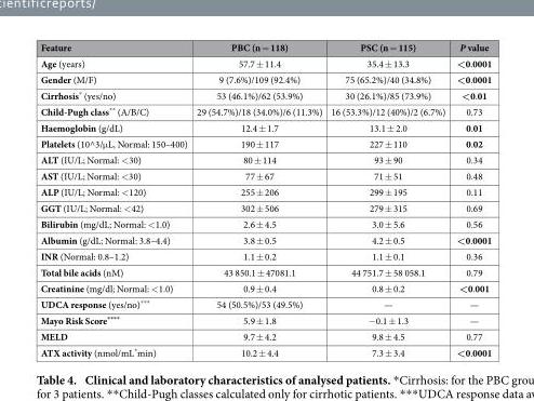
<table><thead><tr><td>Feature</td><td>PBC (n = 118)</td><td>PSC (n = 115)</td><td>P value</td></tr></thead><tbody><tr><td>Age (years)</td><td>57.7 ± 11.4</td><td>35.4 ± 13.3</td><td>&lt;0.0001</td></tr><tr><td>Gender (M/F)</td><td>9 (7.6%)/109 (92.4%)</td><td>75 (65.2%)/40 (34.8%)</td><td>&lt;0.0001</td></tr><tr><td>Cirrhosis* (yes/no)</td><td>53 (46.1%)/62 (53.9%)</td><td>30 (26.1%)/85 (73.9%)</td><td>&lt;0.01</td></tr><tr><td>Child-Pugh class** (A/B/C)</td><td>29 (54.7%)/18 (34.0%)/6 (11.3%)</td><td>16 (53.3%)/12 (40%)/2 (6.7%)</td><td>0.73</td></tr><tr><td>Haemoglobin (g/dL)</td><td>12.4 ± 1.7</td><td>13.1 ± 2.0</td><td>0.01</td></tr><tr><td>Platelets (10^3/μ L, Normal: 150–400)</td><td>190 ± 117</td><td>227 ± 110</td><td>0.02</td></tr><tr><td>ALT (IU/L; Normal: &lt; 30)</td><td>80 ± 114</td><td>93 ± 90</td><td>0.34</td></tr><tr><td>AST (IU/L; Normal: &lt; 30)</td><td>77 ± 67</td><td>71 ± 51</td><td>0.48</td></tr><tr><td>ALP (IU/L; Normal: &lt; 120)</td><td>255 ± 206</td><td>299 ± 195</td><td>0.11</td></tr><tr><td>GGT (IU/L; Normal: &lt; 42)</td><td>302 ± 506</td><td>279 ± 315</td><td>0.69</td></tr><tr><td>Bilirubin (mg/dL; Normal: &lt; 1.0)</td><td>2.6 ± 4.5</td><td>3.0 ± 5.6</td><td>0.56</td></tr><tr><td>Albumin (g/dL; Normal: 3.8–4.4)</td><td>3.8 ± 0.5</td><td>4.2 ± 0.5</td><td>&lt;0.0001</td></tr><tr><td>INR (Normal: 0.8–1.2)</td><td>1.1 ± 0.2</td><td>1.1 ± 0.1</td><td>0.36</td></tr><tr><td>Total bile acids (nM)</td><td>43 850.1 ± 47081.1</td><td>44 751.7 ± 58 058.1</td><td>0.79</td></tr><tr><td>Creatinine (mg/dl; Normal: &lt; 1.0)</td><td>0.9 ± 0.4</td><td>0.8 ± 0.2</td><td>&lt;0.001</td></tr><tr><td>UDCA response (yes/no)***</td><td>54 (50.5%)/53 (49.5%)</td><td>—</td><td>—</td></tr><tr><td>Mayo Risk Score****</td><td>5.9 ± 1.8</td><td>− 0.1 ± 1.3</td><td>—</td></tr><tr><td>MELD</td><td>9.7 ± 4.2</td><td>9.8 ± 4.5</td><td>0.77</td></tr><tr><td>ATX activity (nmol/mL*min)</td><td>10.2 ± 4.4</td><td>7.3 ± 3.4</td><td>&lt;0.0001</td></tr></tbody></table>